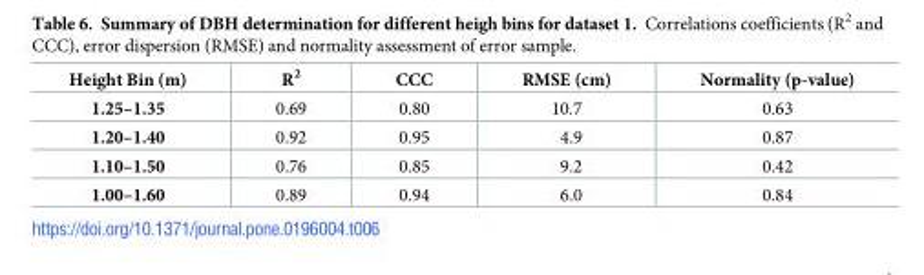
<table><thead><tr><td>Height Bin (m)</td><td>R<sup>2</sup></td><td>CCC</td><td>RMSE (cm)</td><td>Normality (p-value)</td></tr></thead><tbody><tr><td>1.25–1.35</td><td>0.69</td><td>0.80</td><td>10.7</td><td>0.63</td></tr><tr><td>1.20–1.40</td><td>0.92</td><td>0.95</td><td>4.9</td><td>0.87</td></tr><tr><td>1.10–1.50</td><td>0.76</td><td>0.85</td><td>9.2</td><td>0.42</td></tr><tr><td>1.00–1.60</td><td>0.89</td><td>0.94</td><td>6.0</td><td>0.84</td></tr></tbody></table>